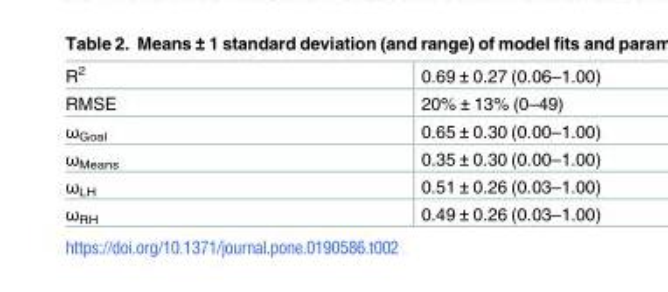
<table><tbody><tr><td>R<sup>2</sup></td><td>0.69 ± 0.27 (0.06–1.00)</td></tr><tr><td>RMSE</td><td>20% ± 13% (0–49)</td></tr><tr><td>ω<sub>Goal</sub></td><td>0.65 ± 0.30 (0.00–1.00)</td></tr><tr><td>ω<sub>Means</sub></td><td>0.35 ± 0.30 (0.00–1.00)</td></tr><tr><td>ω<sub>LH</sub></td><td>0.51 ± 0.26 (0.03–1.00)</td></tr><tr><td>ω<sub>RH</sub></td><td>0.49 ± 0.26 (0.03–1.00)</td></tr></tbody></table>